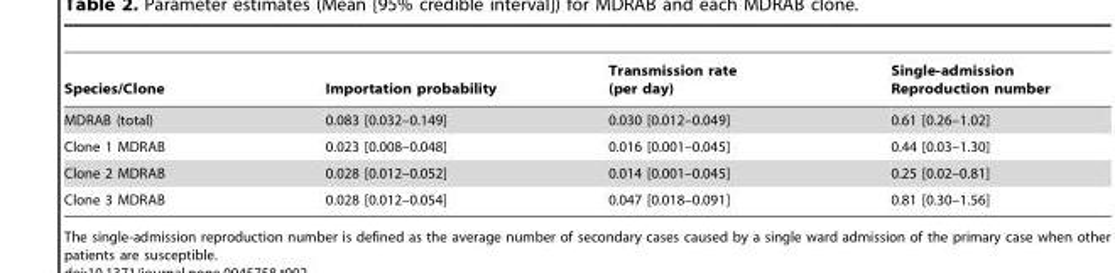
<table><thead><tr><td>Species/Clone</td><td>Importation probability</td><td>Transmission rate (per day)</td><td>Single-admission Reproduction number</td></tr></thead><tbody><tr><td>MDRAB (total)</td><td>0.083 [0.032–0.149]</td><td>0.030 [0.012–0.049]</td><td>0.61 [0.26–1.02]</td></tr><tr><td>Clone 1 MDRAB</td><td>0.023 [0.008–0.048]</td><td>0.016 [0.001–0.045]</td><td>0.44 [0.03–1.30]</td></tr><tr><td>Clone 2 MDRAB</td><td>0.028 [0.012–0.052]</td><td>0.014 [0.001–0.045]</td><td>0.25 [0.02–0.81]</td></tr><tr><td>Clone 3 MDRAB</td><td>0.028 [0.012–0.054]</td><td>0.047 [0.018–0.091]</td><td>0.81 [0.30–1.56]</td></tr></tbody></table>